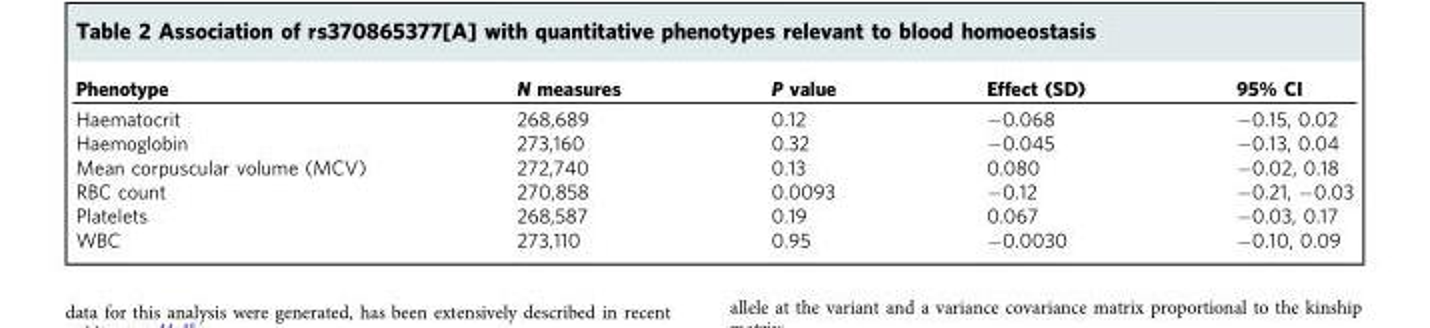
<table><thead><tr><td>Phenotype</td><td>N measures</td><td>P value</td><td>Effect (SD)</td><td>95% CI</td></tr></thead><tbody><tr><td>Haematocrit</td><td>268,689</td><td>0.12</td><td>−0.068</td><td>−0.15, 0.02</td></tr><tr><td>Haemoglobin</td><td>273,160</td><td>0.32</td><td>−0.045</td><td>−0.13, 0.04</td></tr><tr><td>Mean corpuscular volume (MCV)</td><td>272,740</td><td>0.13</td><td>0.080</td><td>−0.02, 0.18</td></tr><tr><td>RBC count</td><td>270,858</td><td>0.0093</td><td>−0.12</td><td>−0.21, −0.03</td></tr><tr><td>Platelets</td><td>268,587</td><td>0.19</td><td>0.067</td><td>−0.03, 0.17</td></tr><tr><td>WBC</td><td>273,110</td><td>0.95</td><td>−0.0030</td><td>−0.10, 0.09</td></tr></tbody></table>